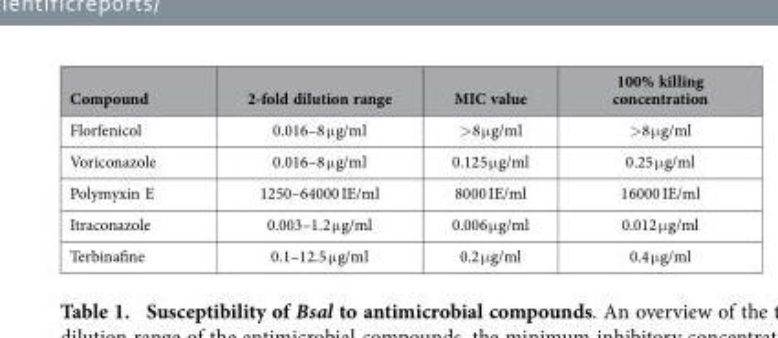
<table><thead><tr><td>Compound</td><td>2-fold dilution range</td><td>MIC value</td><td>100% killing concentration</td></tr></thead><tbody><tr><td>Florfenicol</td><td>0.016–8 μ g/ml</td><td>&gt;8 μ g/ml</td><td>&gt;8 μ g/ml</td></tr><tr><td>Voriconazole</td><td>0.016–8 μ g/ml</td><td>0.125 μ g/ml</td><td>0.25 μ g/ml</td></tr><tr><td>Polymyxin E</td><td>1250–64000 IE/ml</td><td>8000 IE/ml</td><td>16000 IE/ml</td></tr><tr><td>Itraconazole</td><td>0.003–1.2 μ g/ml</td><td>0.006 μ g/ml</td><td>0.012 μ g/ml</td></tr><tr><td>Terbinafine</td><td>0.1–12.5 μ g/ml</td><td>0.2 μ g/ml</td><td>0.4 μ g/ml</td></tr></tbody></table>